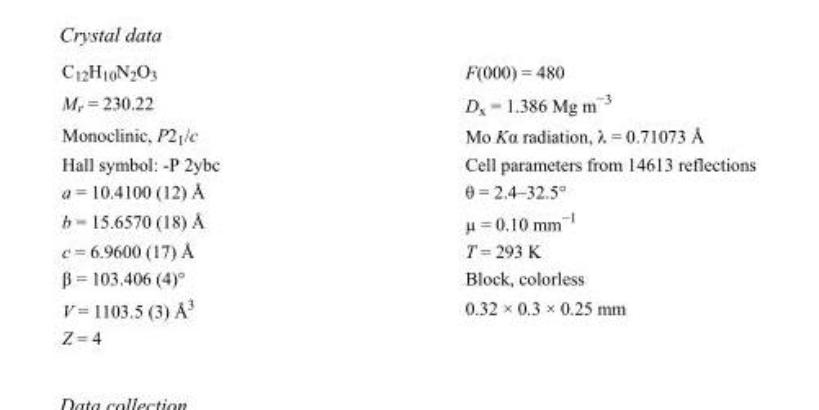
<table><tbody><tr><td>C<sub>12</sub>H<sub>10</sub>N<sub>2</sub>O<sub>3</sub></td><td>F(000) = 480</td></tr><tr><td>M<sub>r</sub> = 230.22</td><td>D<sub>x</sub> = 1.386 Mg m<sup>−3</sup></td></tr><tr><td>Monoclinic, P2<sub>1</sub>/c</td><td>Mo Kα radiation, λ = 0.71073 Å</td></tr><tr><td>Hall symbol: -P 2ybc</td><td>Cell parameters from 14613 reflections</td></tr><tr><td>a = 10.4100 (12) Å</td><td>θ = 2.4–32.5°</td></tr><tr><td>b = 15.6570 (18) Å</td><td>µ = 0.10 mm<sup>−1</sup></td></tr><tr><td>c = 6.9600 (17) Å</td><td>T = 293 K</td></tr><tr><td>β = 103.406 (4)°</td><td>Block, colorless</td></tr><tr><td>V = 1103.5 (3) Å<sup>3</sup></td><td>0.32 × 0.3 × 0.25 mm</td></tr><tr><td>Z = 4</td><td></td></tr></tbody></table>